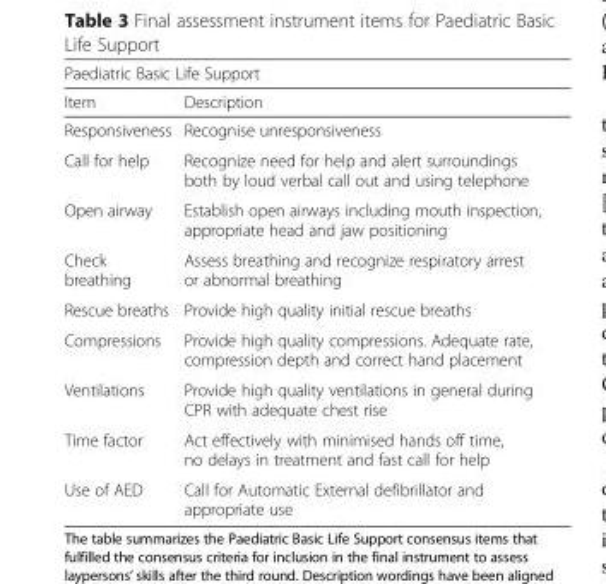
<table><thead><tr><td colspan="2">Paediatric Basic Life Support</td></tr><tr><td>Item</td><td>Description</td></tr></thead><tbody><tr><td>Responsiveness</td><td>Recognise unresponsiveness</td></tr><tr><td>Call for help</td><td>Recognize need for help and alert surroundings both by loud verbal call out and using telephone</td></tr><tr><td>Open airway</td><td>Establish open airways including mouth inspection, appropriate head and jaw positioning</td></tr><tr><td>Check breathing</td><td>Assess breathing and recognize respiratory arrest or abnormal breathing</td></tr><tr><td>Rescue breaths</td><td>Provide high quality initial rescue breaths</td></tr><tr><td>Compressions</td><td>Provide high quality compressions. Adequate rate, compression depth and correct hand placement</td></tr><tr><td>Ventilations</td><td>Provide high quality ventilations in general during CPR with adequate chest rise</td></tr><tr><td>Time factor</td><td>Act effectively with minimised hands off time, no delays in treatment and fast call for help</td></tr><tr><td>Use of AED</td><td>Call for Automatic External defibrillator and appropriate use</td></tr></tbody></table>